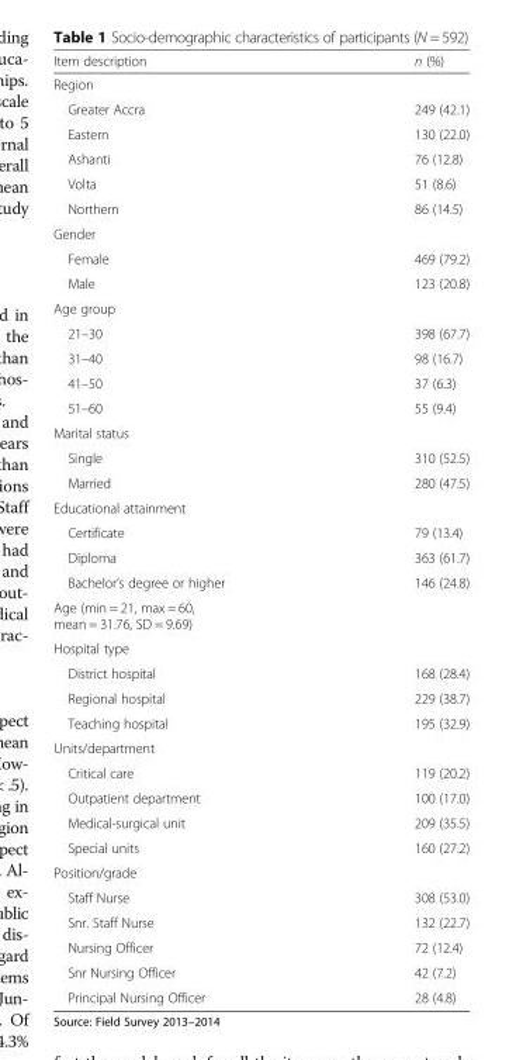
<table><thead><tr><td>Item description</td><td>n (%)</td></tr></thead><tbody><tr><td colspan="2">Region</td></tr><tr><td>Greater Accra</td><td>249 (42.1)</td></tr><tr><td>Eastern</td><td>130 (22.0)</td></tr><tr><td>Ashanti</td><td>76 (12.8)</td></tr><tr><td>Volta</td><td>51 (8.6)</td></tr><tr><td>Northern</td><td>86 (14.5)</td></tr><tr><td colspan="2">Gender</td></tr><tr><td>Female</td><td>469 (79.2)</td></tr><tr><td>Male</td><td>123 (20.8)</td></tr><tr><td colspan="2">Age group</td></tr><tr><td>21–30</td><td>398 (67.7)</td></tr><tr><td>31–40</td><td>98 (16.7)</td></tr><tr><td>41–50</td><td>37 (6.3)</td></tr><tr><td>51–60</td><td>55 (9.4)</td></tr><tr><td colspan="2">Marital status</td></tr><tr><td>Single</td><td>310 (52.5)</td></tr><tr><td>Married</td><td>280 (47.5)</td></tr><tr><td colspan="2">Educational attainment</td></tr><tr><td>Certificate</td><td>79 (13.4)</td></tr><tr><td>Diploma</td><td>363 (61.7)</td></tr><tr><td>Bachelor’s degree or higher</td><td>146 (24.8)</td></tr><tr><td colspan="2">Age (min = 21, max = 60, mean = 31.76, SD = 9.69)</td></tr><tr><td colspan="2">Hospital type</td></tr><tr><td>District hospital</td><td>168 (28.4)</td></tr><tr><td>Regional hospital</td><td>229 (38.7)</td></tr><tr><td>Teaching hospital</td><td>195 (32.9)</td></tr><tr><td colspan="2">Units/department</td></tr><tr><td>Critical care</td><td>119 (20.2)</td></tr><tr><td>Outpatient department</td><td>100 (17.0)</td></tr><tr><td>Medical-surgical unit</td><td>209 (35.5)</td></tr><tr><td>Special units</td><td>160 (27.2)</td></tr><tr><td colspan="2">Position/grade</td></tr><tr><td>Staff Nurse</td><td>308 (53.0)</td></tr><tr><td>Snr. Staff Nurse</td><td>132 (22.7)</td></tr><tr><td>Nursing Officer</td><td>72 (12.4)</td></tr><tr><td>Snr Nursing Officer</td><td>42 (7.2)</td></tr><tr><td>Principal Nursing Officer</td><td>28 (4.8)</td></tr></tbody></table>